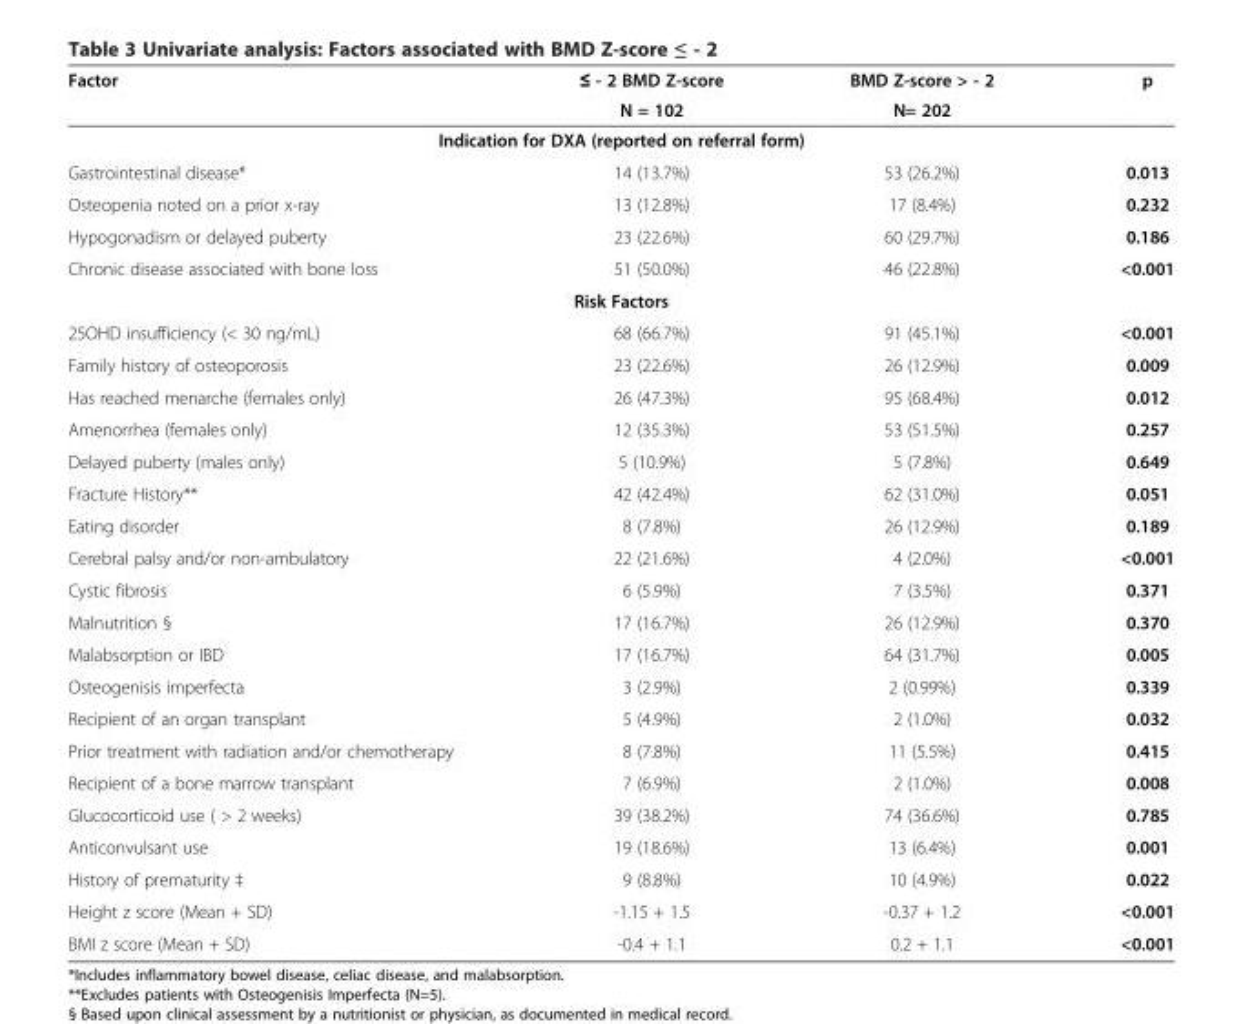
<table><thead><tr><td rowspan="2">Factor</td><td rowspan="2">≤ - 2 BMD Z-score N = 102</td><td rowspan="2">BMD Z-score &gt; - 2 N= 202</td><td rowspan="2">p</td></tr><tr></tr></thead><tbody><tr><td colspan="4">Indication for DXA (reported on referral form)</td></tr><tr><td>Gastrointestinal disease*</td><td>14 (13.7%)</td><td>53 (26.2%)</td><td>0.013</td></tr><tr><td>Osteopenia noted on a prior x-ray</td><td>13 (12.8%)</td><td>17 (8.4%)</td><td>0.232</td></tr><tr><td>Hypogonadism or delayed puberty</td><td>23 (22.6%)</td><td>60 (29.7%)</td><td>0.186</td></tr><tr><td>Chronic disease associated with bone loss</td><td>51 (50.0%)</td><td>46 (22.8%)</td><td>&lt;0.001</td></tr><tr><td colspan="4">Risk Factors</td></tr><tr><td>25OHD insufficiency (&lt; 30 ng/mL)</td><td>68 (66.7%)</td><td>91 (45.1%)</td><td>&lt;0.001</td></tr><tr><td>Family history of osteoporosis</td><td>23 (22.6%)</td><td>26 (12.9%)</td><td>0.009</td></tr><tr><td>Has reached menarche (females only)</td><td>26 (47.3%)</td><td>95 (68.4%)</td><td>0.012</td></tr><tr><td>Amenorrhea (females only)</td><td>12 (35.3%)</td><td>53 (51.5%)</td><td>0.257</td></tr><tr><td>Delayed puberty (males only)</td><td>5 (10.9%)</td><td>5 (7.8%)</td><td>0.649</td></tr><tr><td>Fracture History**</td><td>42 (42.4%)</td><td>62 (31.0%)</td><td>0.051</td></tr><tr><td>Eating disorder</td><td>8 (7.8%)</td><td>26 (12.9%)</td><td>0.189</td></tr><tr><td>Cerebral palsy and/or non-ambulatory</td><td>22 (21.6%)</td><td>4 (2.0%)</td><td>&lt;0.001</td></tr><tr><td>Cystic fibrosis</td><td>6 (5.9%)</td><td>7 (3.5%)</td><td>0.371</td></tr><tr><td>Malnutrition §</td><td>17 (16.7%)</td><td>26 (12.9%)</td><td>0.370</td></tr><tr><td>Malabsorption or IBD</td><td>17 (16.7%)</td><td>64 (31.7%)</td><td>0.005</td></tr><tr><td>Osteogenisis imperfecta</td><td>3 (2.9%)</td><td>2 (0.99%)</td><td>0.339</td></tr><tr><td>Recipient of an organ transplant</td><td>5 (4.9%)</td><td>2 (1.0%)</td><td>0.032</td></tr><tr><td>Prior treatment with radiation and/or chemotherapy</td><td>8 (7.8%)</td><td>11 (5.5%)</td><td>0.415</td></tr><tr><td>Recipient of a bone marrow transplant</td><td>7 (6.9%)</td><td>2 (1.0%)</td><td>0.008</td></tr><tr><td>Glucocorticoid use ( &gt; 2 weeks)</td><td>39 (38.2%)</td><td>74 (36.6%)</td><td>0.785</td></tr><tr><td>Anticonvulsant use</td><td>19 (18.6%)</td><td>13 (6.4%)</td><td>0.001</td></tr><tr><td>History of prematurity ‡</td><td>9 (8.8%)</td><td>10 (4.9%)</td><td>0.022</td></tr><tr><td>Height z score (Mean + SD)</td><td>-1.15 + 1.5</td><td>-0.37 + 1.2</td><td>&lt;0.001</td></tr><tr><td>BMI z score (Mean + SD)</td><td>-0.4 + 1.1</td><td>0.2 + 1.1</td><td>&lt;0.001</td></tr></tbody></table>